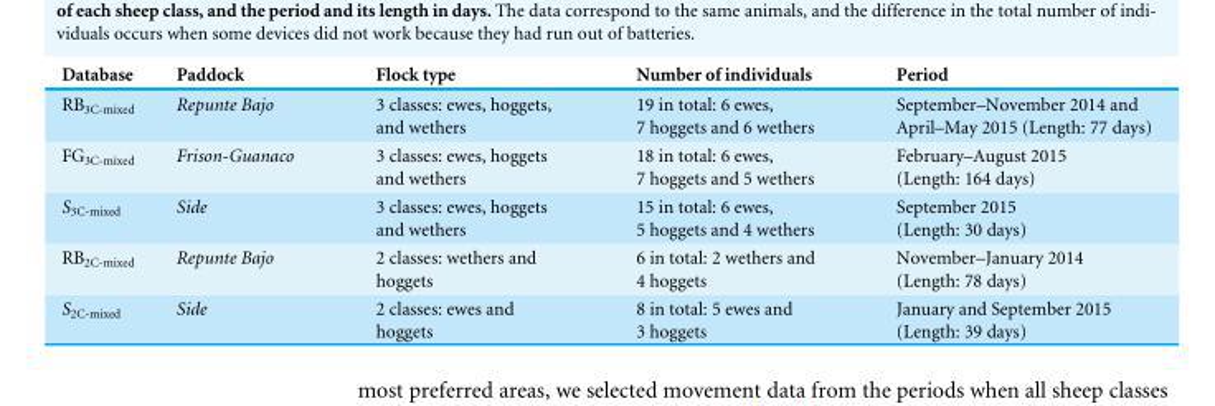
<table><thead><tr><td>Database</td><td>Paddock</td><td>Flock type</td><td>Number of individuals</td><td>Period</td></tr></thead><tbody><tr><td>RB<sub>3C-mixed</sub></td><td>Repunte Bajo</td><td>3 classes: ewes, hoggets, and wethers</td><td>19 in total: 6 ewes, 7 hoggets and 6 wethers</td><td>September–November 2014 and April–May 2015 (Length: 77 days)</td></tr><tr><td>FG<sub>3C-mixed</sub></td><td>Frison-Guanaco</td><td>3 classes: ewes, hoggets and wethers</td><td>18 in total: 6 ewes, 7 hoggets and 5 wethers</td><td>February–August 2015 (Length: 164 days)</td></tr><tr><td>S<sub>3C-mixed</sub></td><td>Side</td><td>3 classes: ewes, hoggets and wethers</td><td>15 in total: 6 ewes, 5 hoggets and 4 wethers</td><td>September 2015 (Length: 30 days)</td></tr><tr><td>RB<sub>2C-mixed</sub></td><td>Repunte Bajo</td><td>2 classes: wethers and hoggets</td><td>6 in total: 2 wethers and 4 hoggets</td><td>November–January 2014 (Length: 78 days)</td></tr><tr><td>S<sub>2C-mixed</sub></td><td>Side</td><td>2 classes: ewes and hoggets</td><td>8 in total: 5 ewes and 3 hoggets</td><td>January and September 2015 (Length: 39 days)</td></tr></tbody></table>